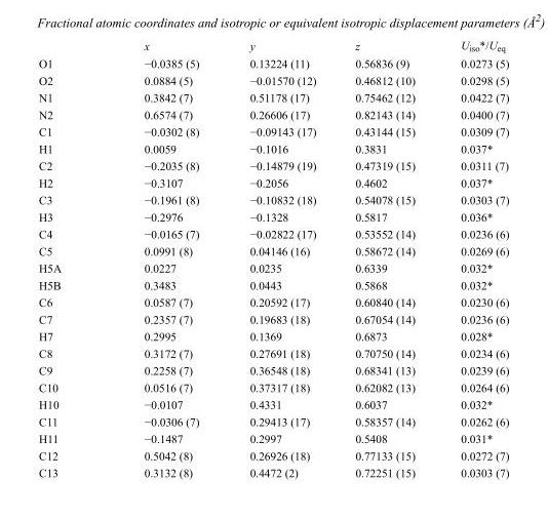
<table><thead><tr><td></td><td>x</td><td>y</td><td>z</td><td>U<sub>iso</sub>*/U<sub>eq</sub></td></tr></thead><tbody><tr><td>O1</td><td>−0.0385 (5)</td><td>0.13224 (11)</td><td>0.56836 (9)</td><td>0.0273 (5)</td></tr><tr><td>O2</td><td>0.0884 (5)</td><td>−0.01570 (12)</td><td>0.46812 (10)</td><td>0.0298 (5)</td></tr><tr><td>N1</td><td>0.3842 (7)</td><td>0.51178 (17)</td><td>0.75462 (12)</td><td>0.0422 (7)</td></tr><tr><td>N2</td><td>0.6574 (7)</td><td>0.26606 (17)</td><td>0.82143 (14)</td><td>0.0400 (7)</td></tr><tr><td>C1</td><td>−0.0302 (8)</td><td>−0.09143 (17)</td><td>0.43144 (15)</td><td>0.0309 (7)</td></tr><tr><td>H1</td><td>0.0059</td><td>−0.1016</td><td>0.3831</td><td>0.037*</td></tr><tr><td>C2</td><td>−0.2035 (8)</td><td>−0.14879 (19)</td><td>0.47319 (15)</td><td>0.0311 (7)</td></tr><tr><td>H2</td><td>−0.3107</td><td>−0.2056</td><td>0.4602</td><td>0.037*</td></tr><tr><td>C3</td><td>−0.1961 (8)</td><td>−0.10832 (18)</td><td>0.54078 (15)</td><td>0.0303 (7)</td></tr><tr><td>H3</td><td>−0.2976</td><td>−0.1328</td><td>0.5817</td><td>0.036*</td></tr><tr><td>C4</td><td>−0.0165 (7)</td><td>−0.02822 (17)</td><td>0.53552 (14)</td><td>0.0236 (6)</td></tr><tr><td>C5</td><td>0.0991 (8)</td><td>0.04146 (16)</td><td>0.58672 (14)</td><td>0.0269 (6)</td></tr><tr><td>H5A</td><td>0.0227</td><td>0.0235</td><td>0.6339</td><td>0.032*</td></tr><tr><td>H5B</td><td>0.3483</td><td>0.0443</td><td>0.5868</td><td>0.032*</td></tr><tr><td>C6</td><td>0.0587 (7)</td><td>0.20592 (17)</td><td>0.60840 (14)</td><td>0.0230 (6)</td></tr><tr><td>C7</td><td>0.2357 (7)</td><td>0.19683 (18)</td><td>0.67054 (14)</td><td>0.0236 (6)</td></tr><tr><td>H7</td><td>0.2995</td><td>0.1369</td><td>0.6873</td><td>0.028*</td></tr><tr><td>C8</td><td>0.3172 (7)</td><td>0.27691 (18)</td><td>0.70750 (14)</td><td>0.0234 (6)</td></tr><tr><td>C9</td><td>0.2258 (7)</td><td>0.36548 (18)</td><td>0.68341 (13)</td><td>0.0239 (6)</td></tr><tr><td>C10</td><td>0.0516 (7)</td><td>0.37317 (18)</td><td>0.62082 (13)</td><td>0.0264 (6)</td></tr><tr><td>H10</td><td>−0.0107</td><td>0.4331</td><td>0.6037</td><td>0.032*</td></tr><tr><td>C11</td><td>−0.0306 (7)</td><td>0.29413 (17)</td><td>0.58357 (14)</td><td>0.0262 (6)</td></tr><tr><td>H11</td><td>−0.1487</td><td>0.2997</td><td>0.5408</td><td>0.031*</td></tr><tr><td>C12</td><td>0.5042 (8)</td><td>0.26926 (18)</td><td>0.77133 (15)</td><td>0.0272 (7)</td></tr><tr><td>C13</td><td>0.3132 (8)</td><td>0.4472 (2)</td><td>0.72251 (15)</td><td>0.0303 (7)</td></tr></tbody></table>